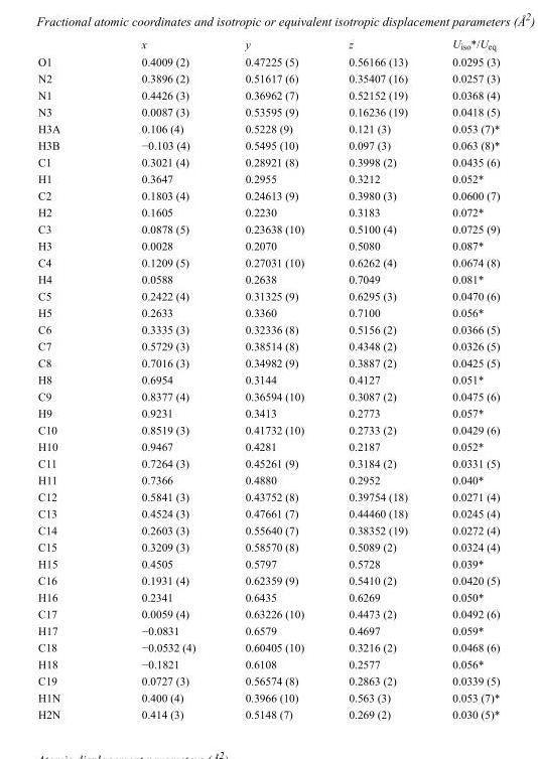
<table><thead><tr><td></td><td>x</td><td>y</td><td>z</td><td>U<sub>iso</sub>*/U<sub>eq</sub></td></tr></thead><tbody><tr><td>O1</td><td>0.4009 (2)</td><td>0.47225 (5)</td><td>0.56166 (13)</td><td>0.0295 (3)</td></tr><tr><td>N2</td><td>0.3896 (2)</td><td>0.51617 (6)</td><td>0.35407 (16)</td><td>0.0257 (3)</td></tr><tr><td>N1</td><td>0.4426 (3)</td><td>0.36962 (7)</td><td>0.52152 (19)</td><td>0.0368 (4)</td></tr><tr><td>N3</td><td>0.0087 (3)</td><td>0.53595 (9)</td><td>0.16236 (19)</td><td>0.0418 (5)</td></tr><tr><td>H3A</td><td>0.106 (4)</td><td>0.5228 (9)</td><td>0.121 (3)</td><td>0.053 (7)*</td></tr><tr><td>H3B</td><td>−0.103 (4)</td><td>0.5495 (10)</td><td>0.097 (3)</td><td>0.063 (8)*</td></tr><tr><td>C1</td><td>0.3021 (4)</td><td>0.28921 (8)</td><td>0.3998 (2)</td><td>0.0435 (6)</td></tr><tr><td>H1</td><td>0.3647</td><td>0.2955</td><td>0.3212</td><td>0.052*</td></tr><tr><td>C2</td><td>0.1803 (4)</td><td>0.24613 (9)</td><td>0.3980 (3)</td><td>0.0600 (7)</td></tr><tr><td>H2</td><td>0.1605</td><td>0.2230</td><td>0.3183</td><td>0.072*</td></tr><tr><td>C3</td><td>0.0878 (5)</td><td>0.23638 (10)</td><td>0.5100 (4)</td><td>0.0725 (9)</td></tr><tr><td>H3</td><td>0.0028</td><td>0.2070</td><td>0.5080</td><td>0.087*</td></tr><tr><td>C4</td><td>0.1209 (5)</td><td>0.27031 (10)</td><td>0.6262 (4)</td><td>0.0674 (8)</td></tr><tr><td>H4</td><td>0.0588</td><td>0.2638</td><td>0.7049</td><td>0.081*</td></tr><tr><td>C5</td><td>0.2422 (4)</td><td>0.31325 (9)</td><td>0.6295 (3)</td><td>0.0470 (6)</td></tr><tr><td>H5</td><td>0.2633</td><td>0.3360</td><td>0.7100</td><td>0.056*</td></tr><tr><td>C6</td><td>0.3335 (3)</td><td>0.32336 (8)</td><td>0.5156 (2)</td><td>0.0366 (5)</td></tr><tr><td>C7</td><td>0.5729 (3)</td><td>0.38514 (8)</td><td>0.4348 (2)</td><td>0.0326 (5)</td></tr><tr><td>C8</td><td>0.7016 (3)</td><td>0.34982 (9)</td><td>0.3887 (2)</td><td>0.0425 (5)</td></tr><tr><td>H8</td><td>0.6954</td><td>0.3144</td><td>0.4127</td><td>0.051*</td></tr><tr><td>C9</td><td>0.8377 (4)</td><td>0.36594 (10)</td><td>0.3087 (2)</td><td>0.0475 (6)</td></tr><tr><td>H9</td><td>0.9231</td><td>0.3413</td><td>0.2773</td><td>0.057*</td></tr><tr><td>C10</td><td>0.8519 (3)</td><td>0.41732 (10)</td><td>0.2733 (2)</td><td>0.0429 (6)</td></tr><tr><td>H10</td><td>0.9467</td><td>0.4281</td><td>0.2187</td><td>0.052*</td></tr><tr><td>C11</td><td>0.7264 (3)</td><td>0.45261 (9)</td><td>0.3184 (2)</td><td>0.0331 (5)</td></tr><tr><td>H11</td><td>0.7366</td><td>0.4880</td><td>0.2952</td><td>0.040*</td></tr><tr><td>C12</td><td>0.5841 (3)</td><td>0.43752 (8)</td><td>0.39754 (18)</td><td>0.0271 (4)</td></tr><tr><td>C13</td><td>0.4524 (3)</td><td>0.47661 (7)</td><td>0.44460 (18)</td><td>0.0245 (4)</td></tr><tr><td>C14</td><td>0.2603 (3)</td><td>0.55640 (7)</td><td>0.38352 (19)</td><td>0.0272 (4)</td></tr><tr><td>C15</td><td>0.3209 (3)</td><td>0.58570 (8)</td><td>0.5089 (2)</td><td>0.0324 (4)</td></tr><tr><td>H15</td><td>0.4505</td><td>0.5797</td><td>0.5728</td><td>0.039*</td></tr><tr><td>C16</td><td>0.1931 (4)</td><td>0.62359 (9)</td><td>0.5410 (2)</td><td>0.0420 (5)</td></tr><tr><td>H16</td><td>0.2341</td><td>0.6435</td><td>0.6269</td><td>0.050*</td></tr><tr><td>C17</td><td>0.0059 (4)</td><td>0.63226 (10)</td><td>0.4473 (2)</td><td>0.0492 (6)</td></tr><tr><td>H17</td><td>−0.0831</td><td>0.6579</td><td>0.4697</td><td>0.059*</td></tr><tr><td>C18</td><td>−0.0532 (4)</td><td>0.60405 (10)</td><td>0.3216 (2)</td><td>0.0468 (6)</td></tr><tr><td>H18</td><td>−0.1821</td><td>0.6108</td><td>0.2577</td><td>0.056*</td></tr><tr><td>C19</td><td>0.0727 (3)</td><td>0.56574 (8)</td><td>0.2863 (2)</td><td>0.0339 (5)</td></tr><tr><td>H1N</td><td>0.400 (4)</td><td>0.3966 (10)</td><td>0.563 (3)</td><td>0.053 (7)*</td></tr><tr><td>H2N</td><td>0.414 (3)</td><td>0.5148 (7)</td><td>0.269 (2)</td><td>0.030 (5)*</td></tr></tbody></table>